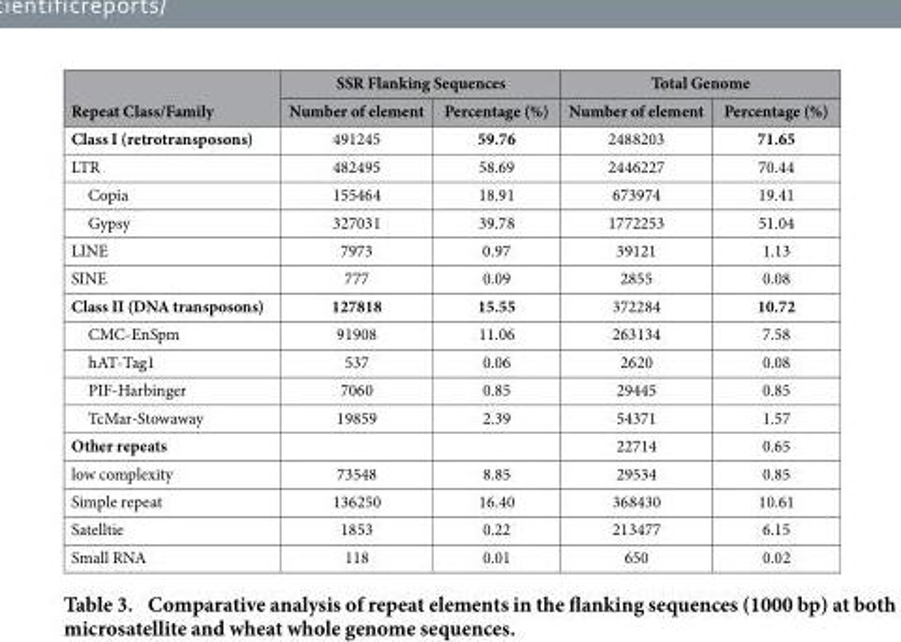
<table><thead><tr><td rowspan="2">Repeat Class/Family</td><td colspan="2">SSR Flanking Sequences</td><td colspan="2">Total Genome</td></tr><tr><td>Number of element</td><td>Percentage (%)</td><td>Number of element</td><td>Percentage (%)</td></tr></thead><tbody><tr><td>Class I (retrotransposons)</td><td>491245</td><td>59.76</td><td>2488203</td><td>71.65</td></tr><tr><td>LTR</td><td>482495</td><td>58.69</td><td>2446227</td><td>70.44</td></tr><tr><td>Copia</td><td>155464</td><td>18.91</td><td>673974</td><td>19.41</td></tr><tr><td>Gypsy</td><td>327031</td><td>39.78</td><td>1772253</td><td>51.04</td></tr><tr><td>LINE</td><td>7973</td><td>0.97</td><td>39121</td><td>1.13</td></tr><tr><td>SINE</td><td>777</td><td>0.09</td><td>2855</td><td>0.08</td></tr><tr><td>Class II (DNA transposons)</td><td>127818</td><td>15.55</td><td>372284</td><td>10.72</td></tr><tr><td>CMC-EnSpm</td><td>91908</td><td>11.06</td><td>263134</td><td>7.58</td></tr><tr><td>hAT-Tag1</td><td>537</td><td>0.06</td><td>2620</td><td>0.08</td></tr><tr><td>PIF-Harbinger</td><td>7060</td><td>0.85</td><td>29445</td><td>0.85</td></tr><tr><td>TcMar-Stowaway</td><td>19859</td><td>2.39</td><td>54371</td><td>1.57</td></tr><tr><td>Other repeats</td><td></td><td></td><td>22714</td><td>0.65</td></tr><tr><td>low complexity</td><td>73548</td><td>8.85</td><td>29534</td><td>0.85</td></tr><tr><td>Simple repeat</td><td>136250</td><td>16.40</td><td>368430</td><td>10.61</td></tr><tr><td>Satelltie</td><td>1853</td><td>0.22</td><td>213477</td><td>6.15</td></tr><tr><td>Small RNA</td><td>118</td><td>0.01</td><td>650</td><td>0.02</td></tr></tbody></table>